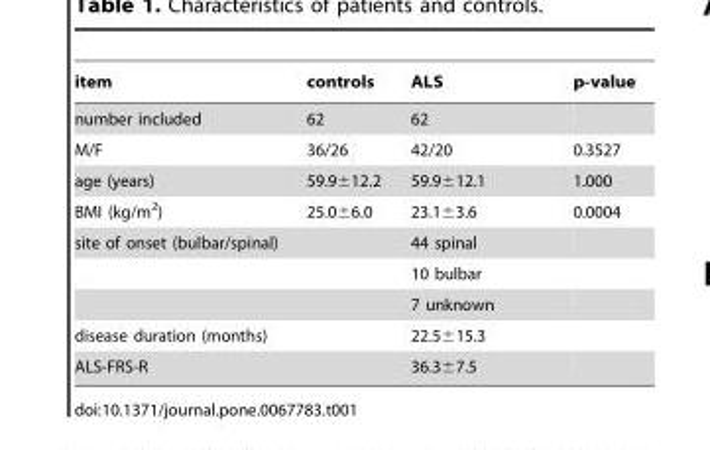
<table><thead><tr><td>item</td><td>controls</td><td>ALS</td><td>p-value</td></tr></thead><tbody><tr><td>number included</td><td>62</td><td>62</td><td></td></tr><tr><td>M/F</td><td>36/26</td><td>42/20</td><td>0.3527</td></tr><tr><td>age (years)</td><td>59.9±12.2</td><td>59.9±12.1</td><td>1.000</td></tr><tr><td>BMI (kg/m<sup>2</sup>)</td><td>25.0±6.0</td><td>23.1±3.6</td><td>0.0004</td></tr><tr><td rowspan="3">site of onset (bulbar/spinal)</td><td></td><td>44 spinal</td><td></td></tr><tr><td></td><td>10 bulbar</td><td></td></tr><tr><td></td><td>7 unknown</td><td></td></tr><tr><td>disease duration (months)</td><td></td><td>22.5±15.3</td><td></td></tr><tr><td>ALS-FRS-R</td><td></td><td>36.3±7.5</td><td></td></tr></tbody></table>